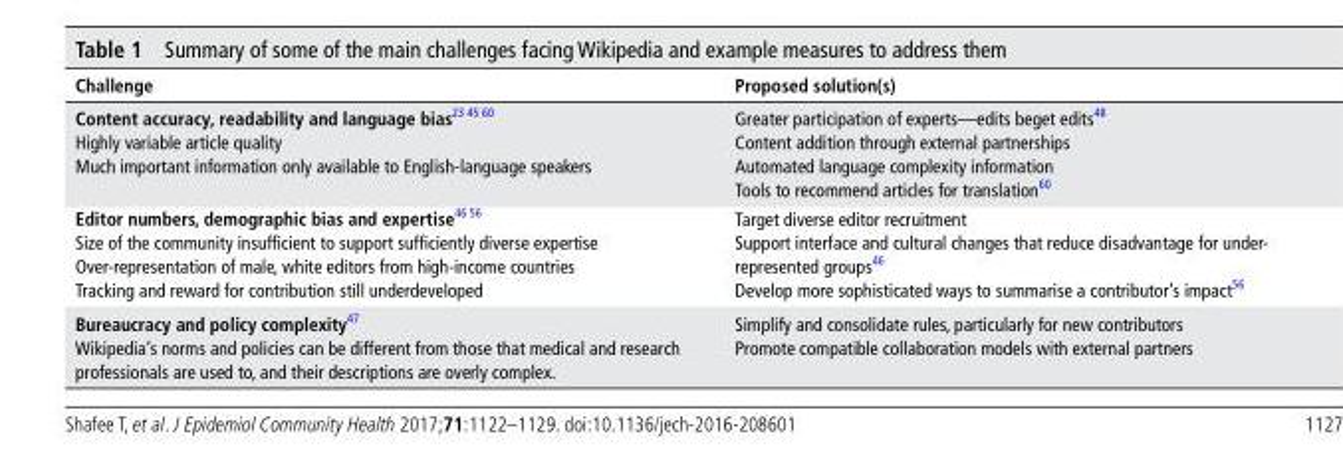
<table><thead><tr><td>Challenge</td><td>proposed solution(s)</td></tr></thead><tbody><tr><td>Content accuracy, readability and language bias<sup>23 45 60</sup> Highly variable article quality Much important information only available to English-language speakers</td><td>Greater participation of experts—edits beget edits<sup>48</sup> Content addition through external partnerships Automated language complexity information Tools to recommend articles for translation<sup>60</sup></td></tr><tr><td>editor numbers, demographic bias and expertise<sup>46 56</sup> Size of the community insufficient to support sufficiently diverse expertise Over-representation of male, white editors from high-income countries Tracking and reward for contribution still underdeveloped</td><td>Target diverse editor recruitment Support interface and cultural changes that reduce disadvantage for under- represented groups<sup>46</sup> Develop more sophisticated ways to summarise a contributor’s impact<sup>56</sup></td></tr><tr><td>bureaucracy and policy complexity<sup>47</sup> Wikipedia’s norms and policies can be different from those that medical and research professionals are used to, and their descriptions are overly complex.</td><td>Simplify and consolidate rules, particularly for new contributors Promote compatible collaboration models with external partners</td></tr></tbody></table>